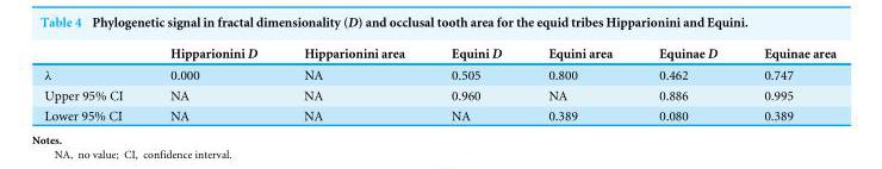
<table><thead><tr><td></td><td>Hipparionini D</td><td>Hipparionini area</td><td>Equini D</td><td>Equini area</td><td>Equinae D</td><td>Equinae area</td></tr></thead><tbody><tr><td>λ</td><td>0.000</td><td>NA</td><td>0.505</td><td>0.800</td><td>0.462</td><td>0.747</td></tr><tr><td>Upper 95% CI</td><td>NA</td><td>NA</td><td>0.960</td><td>NA</td><td>0.886</td><td>0.995</td></tr><tr><td>Lower 95% CI</td><td>NA</td><td>NA</td><td>NA</td><td>0.389</td><td>0.080</td><td>0.389</td></tr></tbody></table>